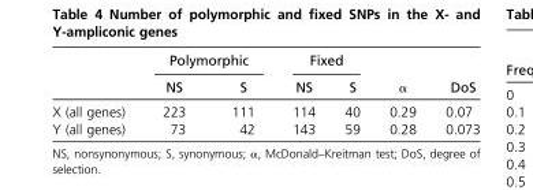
<table><thead><tr><td rowspan="2"></td><td colspan="2">Polymorphic</td><td colspan="2">Fixed</td><td rowspan="2">α</td><td rowspan="2">DoS</td></tr><tr><td>NS</td><td>S</td><td>NS</td><td>S</td></tr></thead><tbody><tr><td>X (all genes)</td><td>223</td><td>111</td><td>114</td><td>40</td><td>0.29</td><td>0.07</td></tr><tr><td>Y (all genes)</td><td>73</td><td>42</td><td>143</td><td>59</td><td>0.28</td><td>0.073</td></tr></tbody></table>